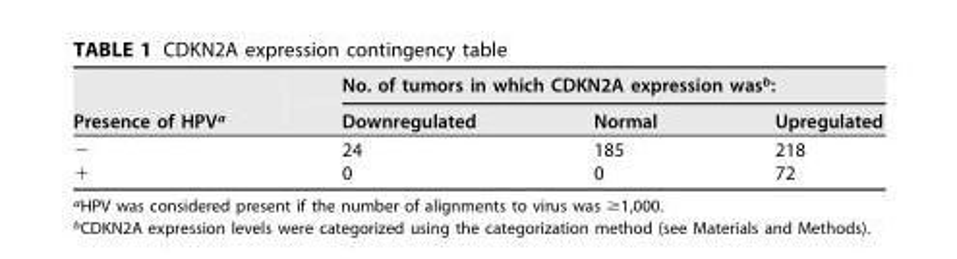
<table><thead><tr><td rowspan="2">Presence of HPV<sup>a</sup></td><td colspan="3">No. of tumors in which CDKN2A expression was<sup>b</sup>:</td></tr><tr><td>Downregulated</td><td>Normal</td><td>Upregulated</td></tr></thead><tbody><tr><td>−</td><td>24</td><td>185</td><td>218</td></tr><tr><td>+</td><td>0</td><td>0</td><td>72</td></tr></tbody></table>